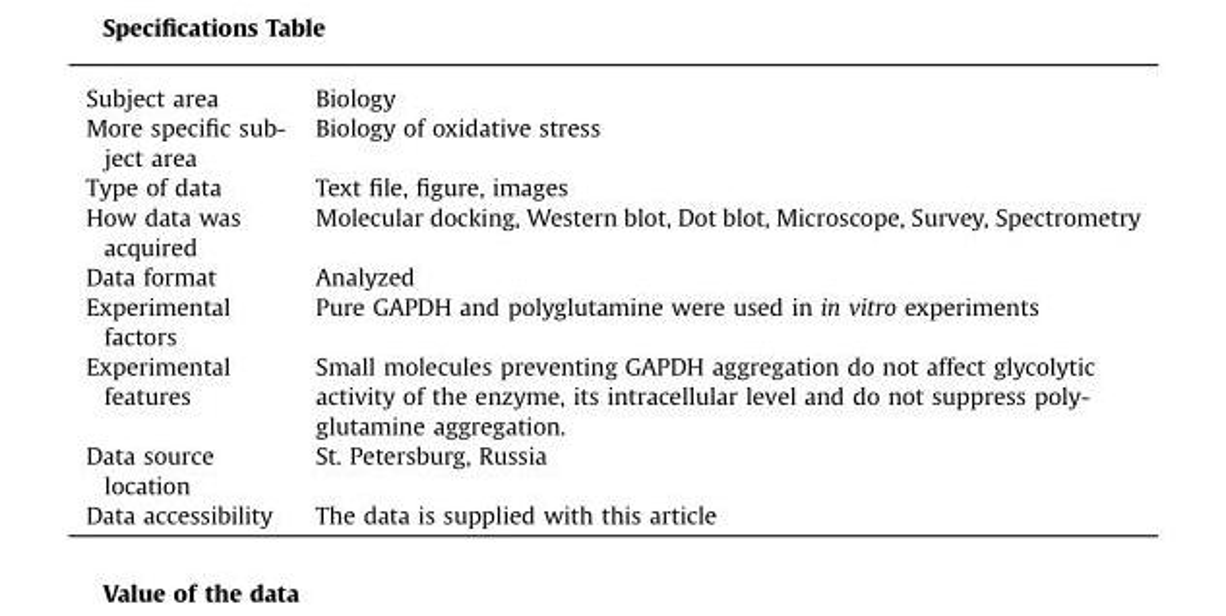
<table><tbody><tr><td>Subject area</td><td>Biology</td></tr><tr><td>More specific sub- ject area</td><td>Biology of oxidative stress</td></tr><tr><td>Type of data</td><td>Text file, figure, images</td></tr><tr><td>How data was acquired</td><td>Molecular docking, Western blot, Dot blot, Microscope, Survey, Spectrometry</td></tr><tr><td>Data format</td><td>Analyzed</td></tr><tr><td>Experimental factors</td><td>Pure GAPDH and polyglutamine were used in in vitro experiments</td></tr><tr><td>Experimental features</td><td>Small molecules preventing GAPDH aggregation do not affect glycolytic activity of the enzyme, its intracellular level and do not suppress poly- glutamine aggregation.</td></tr><tr><td>Data source location</td><td>St. Petersburg, Russia</td></tr><tr><td>Data accessibility</td><td>The data is supplied with this article</td></tr></tbody></table>